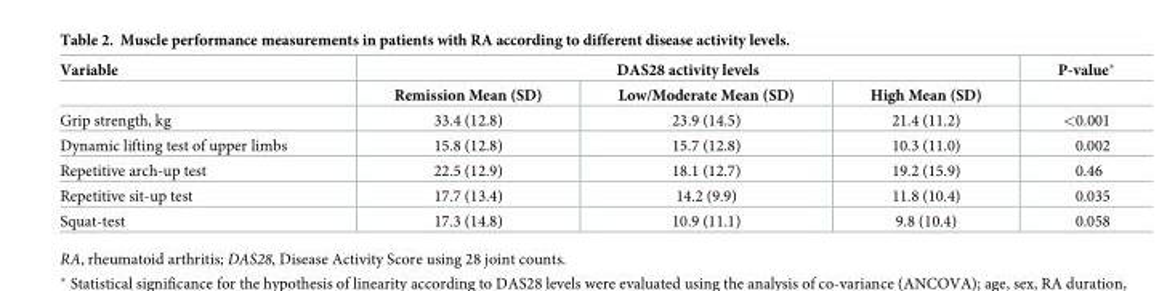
<table><thead><tr><td rowspan="2">Variable</td><td colspan="3">DAS28 activity levels</td><td rowspan="2">P-value*</td></tr><tr><td>Remission Mean (SD)</td><td>Low/Moderate Mean (SD)</td><td>High Mean (SD)</td></tr></thead><tbody><tr><td>Grip strength, kg</td><td>33.4 (12.8)</td><td>23.9 (14.5)</td><td>21.4 (11.2)</td><td>&lt;0.001</td></tr><tr><td>Dynamic lifting test of upper limbs</td><td>15.8 (12.8)</td><td>15.7 (12.8)</td><td>10.3 (11.0)</td><td>0.002</td></tr><tr><td>Repetitive arch-up test</td><td>22.5 (12.9)</td><td>18.1 (12.7)</td><td>19.2 (15.9)</td><td>0.46</td></tr><tr><td>Repetitive sit-up test</td><td>17.7 (13.4)</td><td>14.2 (9.9)</td><td>11.8 (10.4)</td><td>0.035</td></tr><tr><td>Squat-test</td><td>17.3 (14.8)</td><td>10.9 (11.1)</td><td>9.8 (10.4)</td><td>0.058</td></tr></tbody></table>